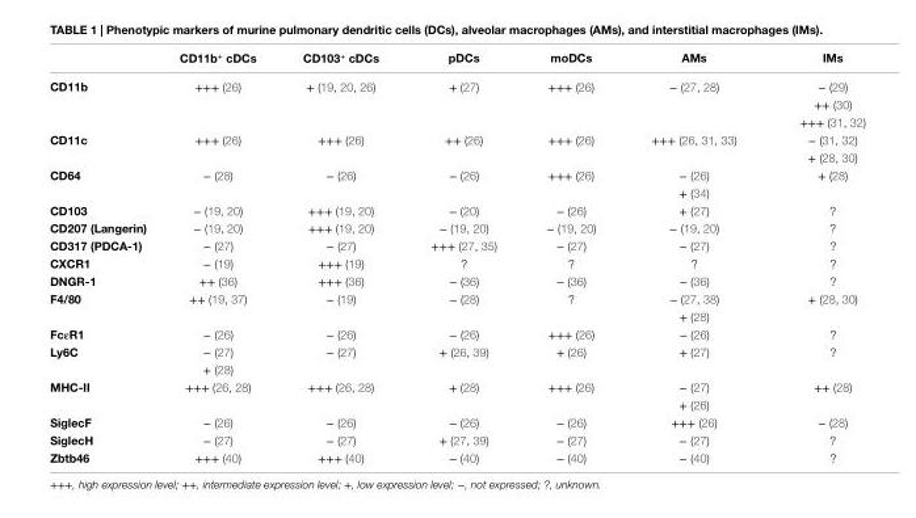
<table><thead><tr><td></td><td>CD11b<sup>+</sup> cDCs</td><td>CD103<sup>+</sup> cDCs</td><td>pDCs</td><td>moDCs</td><td>AMs</td><td>iMs</td></tr></thead><tbody><tr><td rowspan="3">CD11b</td><td>+++ (26)</td><td>+ (19, 20, 26)</td><td>+ (27)</td><td>+++ (26)</td><td>− (27, 28)</td><td>− (29)</td></tr><tr><td></td><td></td><td></td><td></td><td></td><td>++ (30)</td></tr><tr><td></td><td></td><td></td><td></td><td></td><td>+++ (31, 32)</td></tr><tr><td rowspan="2">CD11c</td><td>+++ (26)</td><td>+++ (26)</td><td>++ (26)</td><td>+++ (26)</td><td>+++ (26, 31, 33)</td><td>− (31, 32)</td></tr><tr><td></td><td></td><td></td><td></td><td></td><td>+ (28, 30)</td></tr><tr><td rowspan="2">CD64</td><td>− (28)</td><td>− (26)</td><td>− (26)</td><td>+++ (26)</td><td>− (26)</td><td>+ (28)</td></tr><tr><td></td><td></td><td></td><td></td><td>+ (34)</td><td></td></tr><tr><td>CD103</td><td>− (19, 20)</td><td>+++ (19, 20)</td><td>− (20)</td><td>− (26)</td><td>+ (27)</td><td>?</td></tr><tr><td>CD207 (Langerin)</td><td>− (19, 20)</td><td>+++ (19, 20)</td><td>− (19, 20)</td><td>− (19, 20)</td><td>− (19, 20)</td><td>?</td></tr><tr><td>CD317 (PDCA-1)</td><td>− (27)</td><td>− (27)</td><td>+++ (27, 35)</td><td>− (27)</td><td>− (27)</td><td>?</td></tr><tr><td>CXCR1</td><td>− (19)</td><td>+++ (19)</td><td>?</td><td>?</td><td>?</td><td>?</td></tr><tr><td>DNGR-1</td><td>++ (36)</td><td>+++ (36)</td><td>− (36)</td><td>− (36)</td><td>− (36)</td><td>?</td></tr><tr><td rowspan="2">F4/80</td><td>++ (19, 37)</td><td>− (19)</td><td>− (28)</td><td>?</td><td>− (27, 38)</td><td>+ (28, 30)</td></tr><tr><td></td><td></td><td></td><td></td><td>+ (28)</td><td></td></tr><tr><td>FcεR1</td><td>− (26)</td><td>− (26)</td><td>− (26)</td><td>+++ (26)</td><td>− (26)</td><td>?</td></tr><tr><td rowspan="2">Ly6C</td><td>− (27)</td><td>− (27)</td><td>+ (26, 39)</td><td>+ (26)</td><td>+ (27)</td><td>?</td></tr><tr><td>+ (28)</td><td></td><td></td><td></td><td></td><td></td></tr><tr><td rowspan="2">MHC-ii</td><td>+++ (26, 28)</td><td>+++ (26, 28)</td><td>+ (28)</td><td>+++ (26)</td><td>− (27)</td><td>++ (28)</td></tr><tr><td></td><td></td><td></td><td></td><td>+ (26)</td><td></td></tr><tr><td>SiglecF</td><td>− (26)</td><td>− (26)</td><td>− (26)</td><td>− (26)</td><td>+++ (26)</td><td>− (28)</td></tr><tr><td>SiglecH</td><td>− (27)</td><td>− (27)</td><td>+ (27, 39)</td><td>− (27)</td><td>− (27)</td><td>?</td></tr><tr><td>Zbtb46</td><td>+++ (40)</td><td>+++ (40)</td><td>− (40)</td><td>− (40)</td><td>− (40)</td><td>?</td></tr></tbody></table>